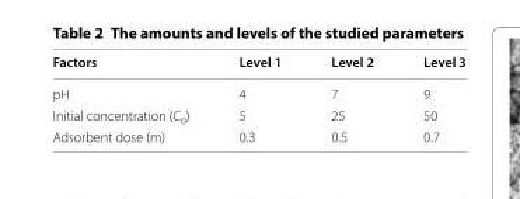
<table><thead><tr><td>Factors</td><td>Level 1</td><td>Level 2</td><td>Level 3</td></tr></thead><tbody><tr><td>pH</td><td>4</td><td>7</td><td>9</td></tr><tr><td>Initial concentration (C<sub>0</sub>)</td><td>5</td><td>25</td><td>50</td></tr><tr><td>Adsorbent dose (m)</td><td>0.3</td><td>0.5</td><td>0.7</td></tr></tbody></table>